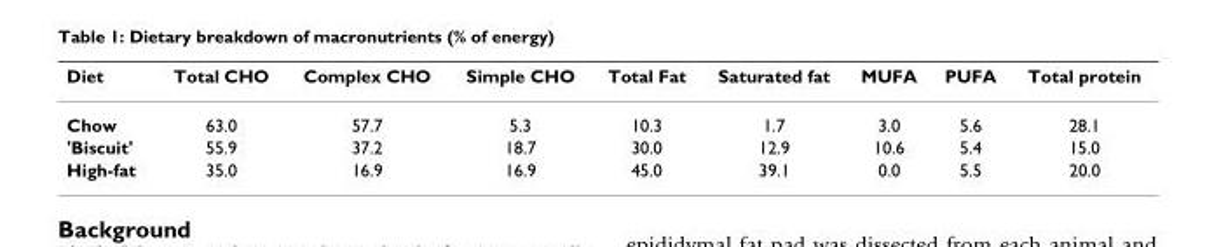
<table><thead><tr><td>Diet</td><td>Total CHO</td><td>Complex CHO</td><td>Simple CHO</td><td>Total Fat</td><td>Saturated fat</td><td>MUFA</td><td>PUFA</td><td>Total protein</td></tr></thead><tbody><tr><td>Chow</td><td>63.0</td><td>57.7</td><td>5.3</td><td>10.3</td><td>1.7</td><td>3.0</td><td>5.6</td><td>28.1</td></tr><tr><td>&#x27;Biscuit&#x27;</td><td>55.9</td><td>37.2</td><td>18.7</td><td>30.0</td><td>12.9</td><td>10.6</td><td>5.4</td><td>15.0</td></tr><tr><td>High-fat</td><td>35.0</td><td>16.9</td><td>16.9</td><td>45.0</td><td>39.1</td><td>0.0</td><td>5.5</td><td>20.0</td></tr></tbody></table>